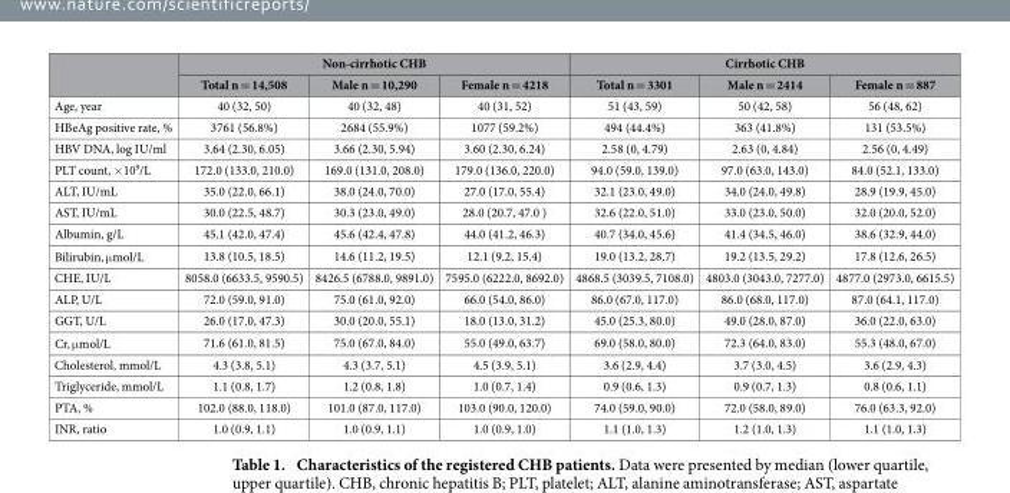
<table><thead><tr><td rowspan="2"></td><td colspan="3">Non-cirrhotic CHB</td><td colspan="3">Cirrhotic CHB</td></tr><tr><td>Total n = 14,508</td><td>Male n = 10,290</td><td>Female n = 4218</td><td>Total n = 3301</td><td>Male n = 2414</td><td>Female n = 887</td></tr></thead><tbody><tr><td>Age, year</td><td>40 (32, 50)</td><td>40 (32, 48)</td><td>40 (31, 52)</td><td>51 (43, 59)</td><td>50 (42, 58)</td><td>56 (48, 62)</td></tr><tr><td>HBeAg positive rate, %</td><td>3761 (56.8%)</td><td>2684 (55.9%)</td><td>1077 (59.2%)</td><td>494 (44.4%)</td><td>363 (41.8%)</td><td>131 (53.5%)</td></tr><tr><td>HBV DNA, log IU/ml</td><td>3.64 (2.30, 6.05)</td><td>3.66 (2.30, 5.94)</td><td>3.60 (2.30, 6.24)</td><td>2.58 (0, 4.79)</td><td>2.63 (0, 4.84)</td><td>2.56 (0, 4.49)</td></tr><tr><td>PLT count, × 10<sup>9</sup>/L</td><td>172.0 (133.0, 210.0)</td><td>169.0 (131.0, 208.0)</td><td>179.0 (136.0, 220.0)</td><td>94.0 (59.0, 139.0)</td><td>97.0 (63.0, 143.0)</td><td>84.0 (52.1, 133.0)</td></tr><tr><td>ALT, IU/mL</td><td>35.0 (22.0, 66.1)</td><td>38.0 (24.0, 70.0)</td><td>27.0 (17.0, 55.4)</td><td>32.1 (23.0, 49.0)</td><td>34.0 (24.0, 49.8)</td><td>28.9 (19.9, 45.0)</td></tr><tr><td>AST, IU/mL</td><td>30.0 (22.5, 48.7)</td><td>30.3 (23.0, 49.0)</td><td>28.0 (20.7, 47.0 )</td><td>32.6 (22.0, 51.0)</td><td>33.0 (23.0, 50.0)</td><td>32.0 (20.0, 52.0)</td></tr><tr><td>Albumin, g/L</td><td>45.1 (42.0, 47.4)</td><td>45.6 (42.4, 47.8)</td><td>44.0 (41.2, 46.3)</td><td>40.7 (34.0, 45.6)</td><td>41.4 (34.5, 46.0)</td><td>38.6 (32.9, 44.0)</td></tr><tr><td>Bilirubin, µmol/L</td><td>13.8 (10.5, 18.5)</td><td>14.6 (11.2, 19.5)</td><td>12.1 (9.2, 15.4)</td><td>19.0 (13.2, 28.7)</td><td>19.2 (13.5, 29.2)</td><td>17.8 (12.6, 26.5)</td></tr><tr><td>CHE, IU/L</td><td>8058.0 (6633.5, 9590.5)</td><td>8426.5 (6788.0, 9891.0)</td><td>7595.0 (6222.0, 8692.0)</td><td>4868.5 (3039.5, 7108.0)</td><td>4803.0 (3043.0, 7277.0)</td><td>4877.0 (2973.0, 6615.5)</td></tr><tr><td>ALP, U/L</td><td>72.0 (59.0, 91.0)</td><td>75.0 (61.0, 92.0)</td><td>66.0 (54.0, 86.0)</td><td>86.0 (67.0, 117.0)</td><td>86.0 (68.0, 117.0)</td><td>87.0 (64.1, 117.0)</td></tr><tr><td>GGT, U/L</td><td>26.0 (17.0, 47.3)</td><td>30.0 (20.0, 55.1)</td><td>18.0 (13.0, 31.2)</td><td>45.0 (25.3, 80.0)</td><td>49.0 (28.0, 87.0)</td><td>36.0 (22.0, 63.0)</td></tr><tr><td>Cr, µmol/L</td><td>71.6 (61.0, 81.5)</td><td>75.0 (67.0, 84.0)</td><td>55.0 (49.0, 63.7)</td><td>69.0 (58.0, 80.0)</td><td>72.3 (64.0, 83.0)</td><td>55.3 (48.0, 67.0)</td></tr><tr><td>Cholesterol, mmol/L</td><td>4.3 (3.8, 5.1)</td><td>4.3 (3.7, 5.1)</td><td>4.5 (3.9, 5.1)</td><td>3.6 (2.9, 4.4)</td><td>3.7 (3.0, 4.5)</td><td>3.6 (2.9, 4.3)</td></tr><tr><td>Triglyceride, mmol/L</td><td>1.1 (0.8, 1.7)</td><td>1.2 (0.8, 1.8)</td><td>1.0 (0.7, 1.4)</td><td>0.9 (0.6, 1.3)</td><td>0.9 (0.7, 1.3)</td><td>0.8 (0.6, 1.1)</td></tr><tr><td>PTA, %</td><td>102.0 (88.0, 118.0)</td><td>101.0 (87.0, 117.0)</td><td>103.0 (90.0, 120.0)</td><td>74.0 (59.0, 90.0)</td><td>72.0 (58.0, 89.0)</td><td>76.0 (63.3, 92.0)</td></tr><tr><td>INR, ratio</td><td>1.0 (0.9, 1.1)</td><td>1.0 (0.9, 1.1)</td><td>1.0 (0.9, 1.0)</td><td>1.1 (1.0, 1.3)</td><td>1.2 (1.0, 1.3)</td><td>1.1 (1.0, 1.3)</td></tr></tbody></table>